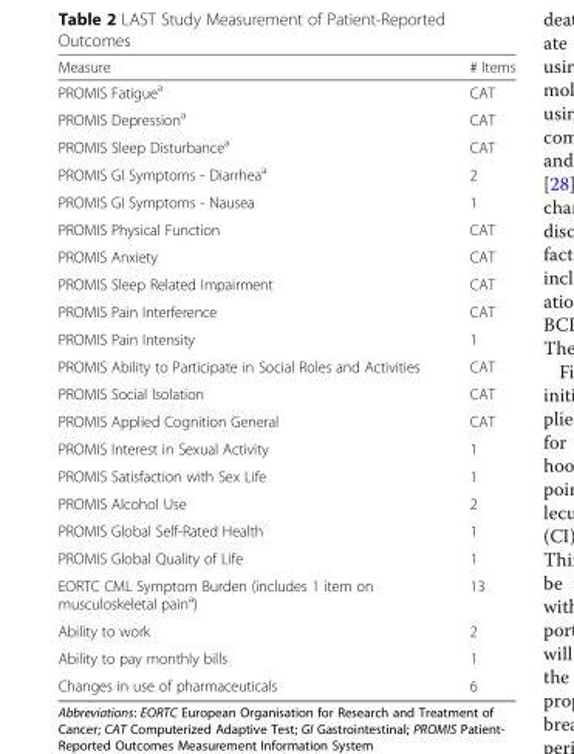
<table><thead><tr><td>Measure</td><td># Items</td></tr></thead><tbody><tr><td>PROMIS Fatigue<sup>a</sup></td><td>CAT</td></tr><tr><td>PROMIS Depression<sup>a</sup></td><td>CAT</td></tr><tr><td>PROMIS Sleep Disturbance<sup>a</sup></td><td>CAT</td></tr><tr><td>PROMIS GI Symptoms - Diarrhea<sup>a</sup></td><td>2</td></tr><tr><td>PROMIS GI Symptoms - Nausea</td><td>1</td></tr><tr><td>PROMIS Physical Function</td><td>CAT</td></tr><tr><td>PROMIS Anxiety</td><td>CAT</td></tr><tr><td>PROMIS Sleep Related Impairment</td><td>CAT</td></tr><tr><td>PROMIS Pain Interference</td><td>CAT</td></tr><tr><td>PROMIS Pain Intensity</td><td>1</td></tr><tr><td>PROMIS Ability to Participate in Social Roles and Activities</td><td>CAT</td></tr><tr><td>PROMIS Social Isolation</td><td>CAT</td></tr><tr><td>PROMIS Applied Cognition General</td><td>CAT</td></tr><tr><td>PROMIS Interest in Sexual Activity</td><td>1</td></tr><tr><td>PROMIS Satisfaction with Sex Life</td><td>1</td></tr><tr><td>PROMIS Alcohol Use</td><td>2</td></tr><tr><td>PROMIS Global Self-Rated Health</td><td>1</td></tr><tr><td>PROMIS Global Quality of Life</td><td>1</td></tr><tr><td>EORTC CML Symptom Burden (includes 1 item on musculoskeletal pain<sup>a</sup>)</td><td>13</td></tr><tr><td>Ability to work</td><td>2</td></tr><tr><td>Ability to pay monthly bills</td><td>1</td></tr><tr><td>Changes in use of pharmaceuticals</td><td>6</td></tr></tbody></table>